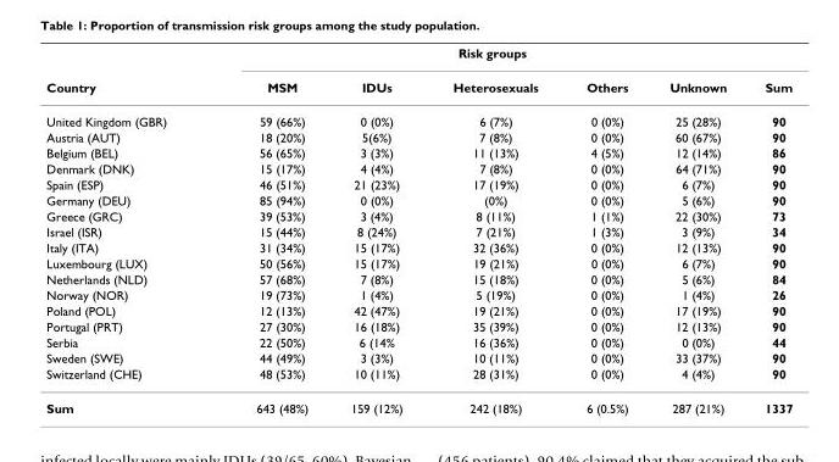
<table><thead><tr><td rowspan="2">Country</td><td colspan="5">Risk groups</td><td rowspan="2">Sum</td></tr><tr><td>MSM</td><td>IDUs</td><td>Heterosexuals</td><td>Others</td><td>Unknown</td></tr></thead><tbody><tr><td>United Kingdom (GBR)</td><td>59 (66%)</td><td>0 (0%)</td><td>6 (7%)</td><td>0 (0%)</td><td>25 (28%)</td><td>90</td></tr><tr><td>Austria (AUT)</td><td>18 (20%)</td><td>5(6%)</td><td>7 (8%)</td><td>0 (0%)</td><td>60 (67%)</td><td>90</td></tr><tr><td>Belgium (BEL)</td><td>56 (65%)</td><td>3 (3%)</td><td>11 (13%)</td><td>4 (5%)</td><td>12 (14%)</td><td>86</td></tr><tr><td>Denmark (DNK)</td><td>15 (17%)</td><td>4 (4%)</td><td>7 (8%)</td><td>0 (0%)</td><td>64 (71%)</td><td>90</td></tr><tr><td>Spain (ESP)</td><td>46 (51%)</td><td>21 (23%)</td><td>17 (19%)</td><td>0 (0%)</td><td>6 (7%)</td><td>90</td></tr><tr><td>Germany (DEU)</td><td>85 (94%)</td><td>0 (0%)</td><td>(0%)</td><td>0 (0%)</td><td>5 (6%)</td><td>90</td></tr><tr><td>Greece (GRC)</td><td>39 (53%)</td><td>3 (4%)</td><td>8 (11%)</td><td>1 (1%)</td><td>22 (30%)</td><td>73</td></tr><tr><td>Israel (ISR)</td><td>15 (44%)</td><td>8 (24%)</td><td>7 (21%)</td><td>1 (3%)</td><td>3 (9%)</td><td>34</td></tr><tr><td>Italy (ITA)</td><td>31 (34%)</td><td>15 (17%)</td><td>32 (36%)</td><td>0 (0%)</td><td>12 (13%)</td><td>90</td></tr><tr><td>Luxembourg (LUX)</td><td>50 (56%)</td><td>15 (17%)</td><td>19 (21%)</td><td>0 (0%)</td><td>6 (7%)</td><td>90</td></tr><tr><td>Netherlands (NLD)</td><td>57 (68%)</td><td>7 (8%)</td><td>15 (18%)</td><td>0 (0%)</td><td>5 (6%)</td><td>84</td></tr><tr><td>Norway (NOR)</td><td>19 (73%)</td><td>1 (4%)</td><td>5 (19%)</td><td>0 (0%)</td><td>1 (4%)</td><td>26</td></tr><tr><td>Poland (POL)</td><td>12 (13%)</td><td>42 (47%)</td><td>19 (21%)</td><td>0 (0%)</td><td>17 (19%)</td><td>90</td></tr><tr><td>Portugal (PRT)</td><td>27 (30%)</td><td>16 (18%)</td><td>35 (39%)</td><td>0 (0%)</td><td>12 (13%)</td><td>90</td></tr><tr><td>Serbia</td><td>22 (50%)</td><td>6 (14%</td><td>16 (36%)</td><td>0 (0%)</td><td>0 (0%)</td><td>44</td></tr><tr><td>Sweden (SWE)</td><td>44 (49%)</td><td>3 (3%)</td><td>10 (11%)</td><td>0 (0%)</td><td>33 (37%)</td><td>90</td></tr><tr><td>Switzerland (CHE)</td><td>48 (53%)</td><td>10 (11%)</td><td>28 (31%)</td><td>0 (0%)</td><td>4 (4%)</td><td>90</td></tr><tr><td>Sum</td><td>643 (48%)</td><td>159 (12%)</td><td>242 (18%)</td><td>6 (0.5%)</td><td>287 (21%)</td><td>1337</td></tr></tbody></table>